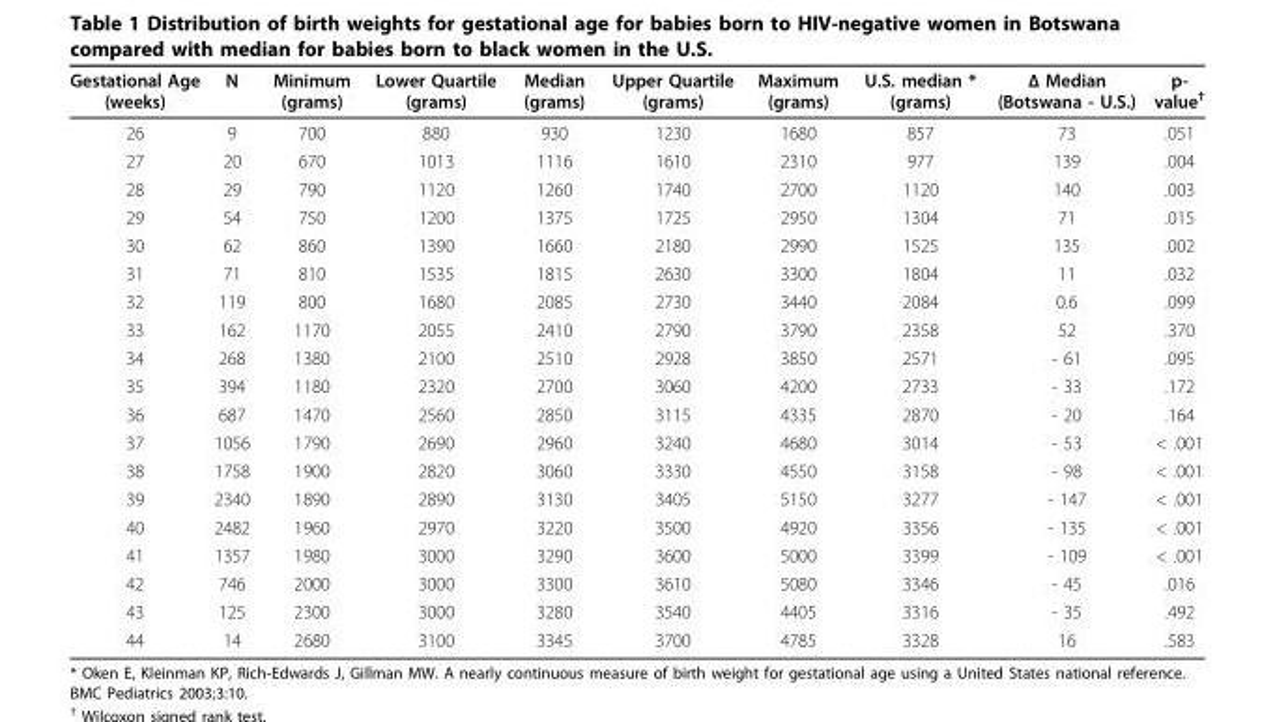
<table><thead><tr><td>Gestational Age (weeks)</td><td>N</td><td>Minimum (grams)</td><td>Lower Quartile (grams)</td><td>Median (grams)</td><td>Upper Quartile (grams)</td><td>Maximum (grams)</td><td>U.S. median * (grams)</td><td>Δ Median (Botswana - U.S.)</td><td>p- value<sup>†</sup></td></tr></thead><tbody><tr><td>26</td><td>9</td><td>700</td><td>880</td><td>930</td><td>1230</td><td>1680</td><td>857</td><td>73</td><td>.051</td></tr><tr><td>27</td><td>20</td><td>670</td><td>1013</td><td>1116</td><td>1610</td><td>2310</td><td>977</td><td>139</td><td>.004</td></tr><tr><td>28</td><td>29</td><td>790</td><td>1120</td><td>1260</td><td>1740</td><td>2700</td><td>1120</td><td>140</td><td>.003</td></tr><tr><td>29</td><td>54</td><td>750</td><td>1200</td><td>1375</td><td>1725</td><td>2950</td><td>1304</td><td>71</td><td>.015</td></tr><tr><td>30</td><td>62</td><td>860</td><td>1390</td><td>1660</td><td>2180</td><td>2990</td><td>1525</td><td>135</td><td>.002</td></tr><tr><td>31</td><td>71</td><td>810</td><td>1535</td><td>1815</td><td>2630</td><td>3300</td><td>1804</td><td>11</td><td>.032</td></tr><tr><td>32</td><td>119</td><td>800</td><td>1680</td><td>2085</td><td>2730</td><td>3440</td><td>2084</td><td>0.6</td><td>.099</td></tr><tr><td>33</td><td>162</td><td>1170</td><td>2055</td><td>2410</td><td>2790</td><td>3790</td><td>2358</td><td>52</td><td>.370</td></tr><tr><td>34</td><td>268</td><td>1380</td><td>2100</td><td>2510</td><td>2928</td><td>3850</td><td>2571</td><td>- 61</td><td>.095</td></tr><tr><td>35</td><td>394</td><td>1180</td><td>2320</td><td>2700</td><td>3060</td><td>4200</td><td>2733</td><td>- 33</td><td>.172</td></tr><tr><td>36</td><td>687</td><td>1470</td><td>2560</td><td>2850</td><td>3115</td><td>4335</td><td>2870</td><td>- 20</td><td>.164</td></tr><tr><td>37</td><td>1056</td><td>1790</td><td>2690</td><td>2960</td><td>3240</td><td>4680</td><td>3014</td><td>- 53</td><td>&lt; .001</td></tr><tr><td>38</td><td>1758</td><td>1900</td><td>2820</td><td>3060</td><td>3330</td><td>4550</td><td>3158</td><td>- 98</td><td>&lt; .001</td></tr><tr><td>39</td><td>2340</td><td>1890</td><td>2890</td><td>3130</td><td>3405</td><td>5150</td><td>3277</td><td>- 147</td><td>&lt; .001</td></tr><tr><td>40</td><td>2482</td><td>1960</td><td>2970</td><td>3220</td><td>3500</td><td>4920</td><td>3356</td><td>- 135</td><td>&lt; .001</td></tr><tr><td>41</td><td>1357</td><td>1980</td><td>3000</td><td>3290</td><td>3600</td><td>5000</td><td>3399</td><td>- 109</td><td>&lt; .001</td></tr><tr><td>42</td><td>746</td><td>2000</td><td>3000</td><td>3300</td><td>3610</td><td>5080</td><td>3346</td><td>- 45</td><td>.016</td></tr><tr><td>43</td><td>125</td><td>2300</td><td>3000</td><td>3280</td><td>3540</td><td>4405</td><td>3316</td><td>- 35</td><td>.492</td></tr><tr><td>44</td><td>14</td><td>2680</td><td>3100</td><td>3345</td><td>3700</td><td>4785</td><td>3328</td><td>16</td><td>.583</td></tr></tbody></table>